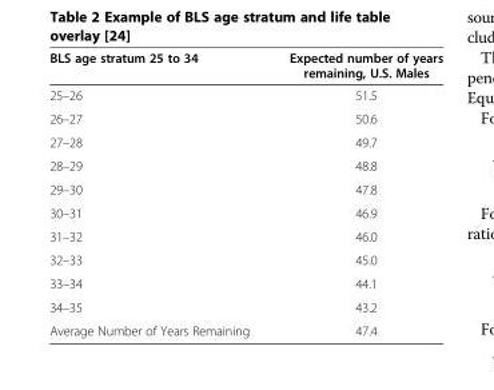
<table><thead><tr><td>BLS age stratum 25 to 34</td><td>Expected number of years remaining, U.S. Males</td></tr></thead><tbody><tr><td>25–26</td><td>51.5</td></tr><tr><td>26–27</td><td>50.6</td></tr><tr><td>27–28</td><td>49.7</td></tr><tr><td>28–29</td><td>48.8</td></tr><tr><td>29–30</td><td>47.8</td></tr><tr><td>30–31</td><td>46.9</td></tr><tr><td>31–32</td><td>46.0</td></tr><tr><td>32–33</td><td>45.0</td></tr><tr><td>33–34</td><td>44.1</td></tr><tr><td>34–35</td><td>43.2</td></tr><tr><td>Average Number of Years Remaining</td><td>47.4</td></tr></tbody></table>